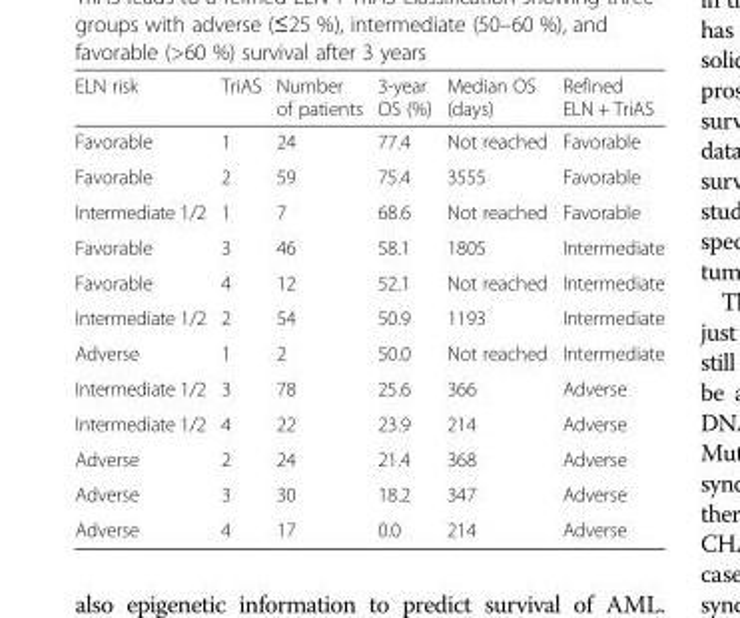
<table><thead><tr><td>ELN risk</td><td>TriAS</td><td>Number of patients</td><td>3-year OS (%)</td><td>Median OS (days)</td><td>Refined ELN + TriAS</td></tr></thead><tbody><tr><td>Favorable</td><td>1</td><td>24</td><td>77.4</td><td>Not reached</td><td>Favorable</td></tr><tr><td>Favorable</td><td>2</td><td>59</td><td>75.4</td><td>3555</td><td>Favorable</td></tr><tr><td>Intermediate 1/2</td><td>1</td><td>7</td><td>68.6</td><td>Not reached</td><td>Favorable</td></tr><tr><td>Favorable</td><td>3</td><td>46</td><td>58.1</td><td>1805</td><td>Intermediate</td></tr><tr><td>Favorable</td><td>4</td><td>12</td><td>52.1</td><td>Not reached</td><td>Intermediate</td></tr><tr><td>Intermediate 1/2</td><td>2</td><td>54</td><td>50.9</td><td>1193</td><td>Intermediate</td></tr><tr><td>Adverse</td><td>1</td><td>2</td><td>50.0</td><td>Not reached</td><td>Intermediate</td></tr><tr><td>Intermediate 1/2</td><td>3</td><td>78</td><td>25.6</td><td>366</td><td>Adverse</td></tr><tr><td>Intermediate 1/2</td><td>4</td><td>22</td><td>23.9</td><td>214</td><td>Adverse</td></tr><tr><td>Adverse</td><td>2</td><td>24</td><td>21.4</td><td>368</td><td>Adverse</td></tr><tr><td>Adverse</td><td>3</td><td>30</td><td>18.2</td><td>347</td><td>Adverse</td></tr><tr><td>Adverse</td><td>4</td><td>17</td><td>0.0</td><td>214</td><td>Adverse</td></tr></tbody></table>